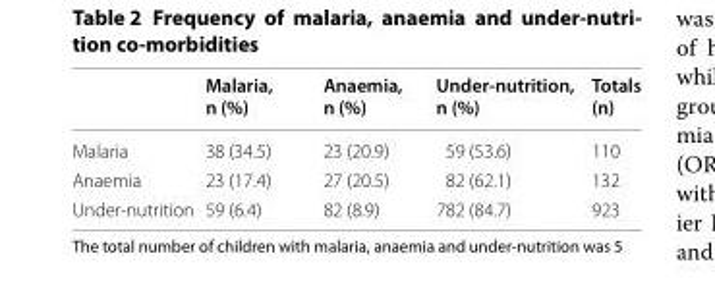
<table><thead><tr><td></td><td>Malaria, n (%)</td><td>Anaemia, n (%)</td><td>Under-nutrition, n (%)</td><td>Totals (n)</td></tr></thead><tbody><tr><td>Malaria</td><td>38 (34.5)</td><td>23 (20.9)</td><td>59 (53.6)</td><td>110</td></tr><tr><td>Anaemia</td><td>23 (17.4)</td><td>27 (20.5)</td><td>82 (62.1)</td><td>132</td></tr><tr><td>Under-nutrition</td><td>59 (6.4)</td><td>82 (8.9)</td><td>782 (84.7)</td><td>923</td></tr></tbody></table>